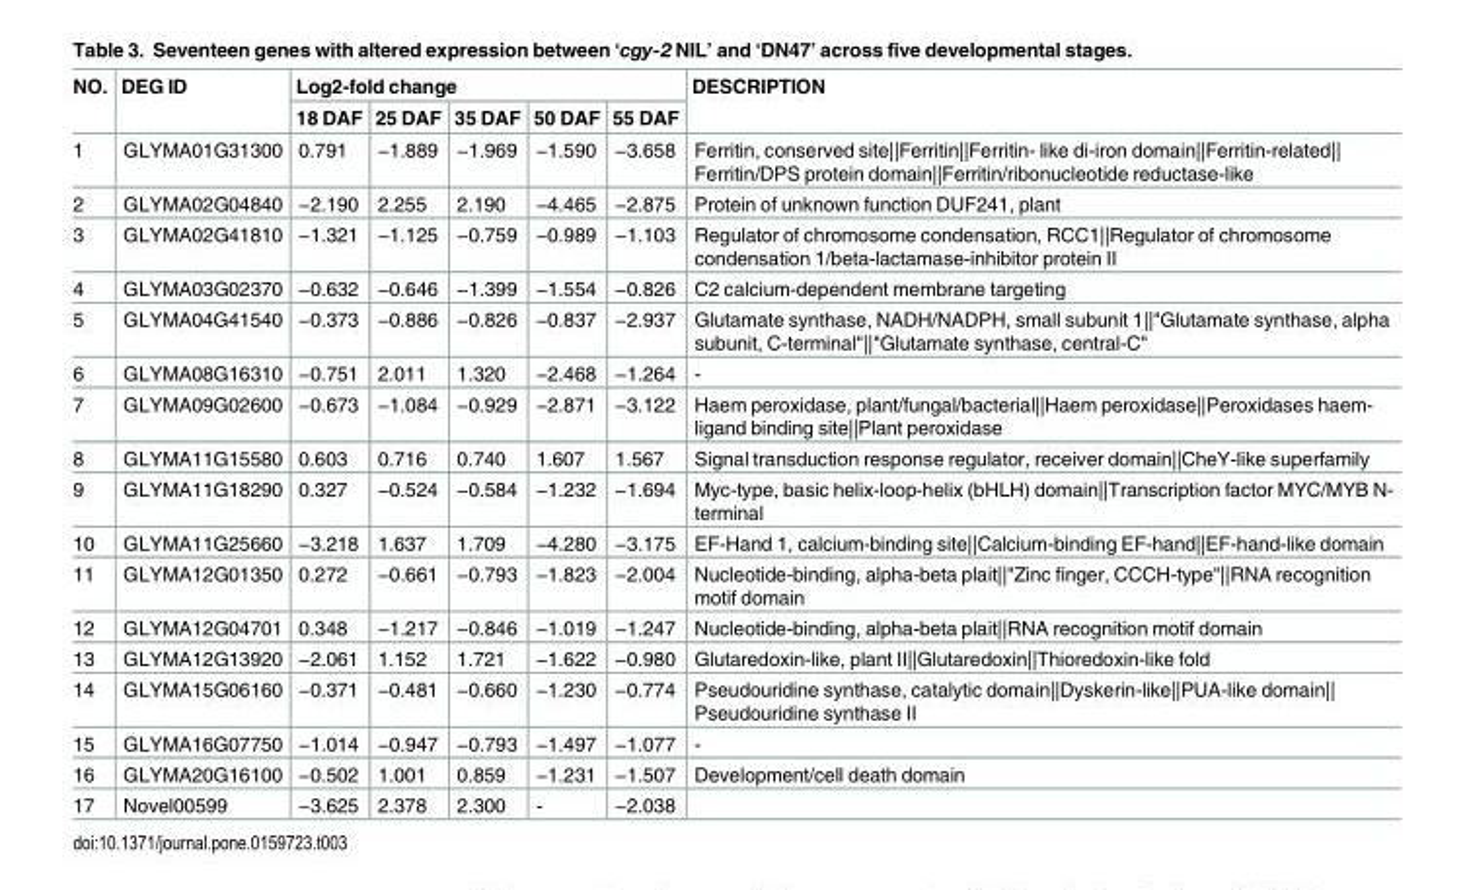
<table><thead><tr><td rowspan="2">NO.</td><td rowspan="2">DEG ID</td><td colspan="5">Log2-fold change</td><td rowspan="2">DESCRIPTION</td></tr><tr><td>18 DAF</td><td>25 DAF</td><td>35 DAF</td><td>50 DAF</td><td>55 DAF</td></tr></thead><tbody><tr><td>1</td><td>GLYMA01G31300</td><td>0.791</td><td>−1.889</td><td>−1.969</td><td>−1.590</td><td>−3.658</td><td>Ferritin, conserved site||Ferritin||Ferritin- like di-iron domain||Ferritin-related|| Ferritin/DPS protein domain||Ferritin/ribonucleotide reductase-like</td></tr><tr><td>2</td><td>GLYMA02G04840</td><td>−2.190</td><td>2.255</td><td>2.190</td><td>−4.465</td><td>−2.875</td><td>Protein of unknown function DUF241, plant</td></tr><tr><td>3</td><td>GLYMA02G41810</td><td>−1.321</td><td>−1.125</td><td>−0.759</td><td>−0.989</td><td>−1.103</td><td>Regulator of chromosome condensation, RCC1||Regulator of chromosome condensation 1/beta-lactamase-inhibitor protein II</td></tr><tr><td>4</td><td>GLYMA03G02370</td><td>−0.632</td><td>−0.646</td><td>−1.399</td><td>−1.554</td><td>−0.826</td><td>C2 calcium-dependent membrane targeting</td></tr><tr><td>5</td><td>GLYMA04G41540</td><td>−0.373</td><td>−0.886</td><td>−0.826</td><td>−0.837</td><td>−2.937</td><td>Glutamate synthase, NADH/NADPH, small subunit 1||&quot;Glutamate synthase, alpha subunit, C-terminal&quot;||&quot;Glutamate synthase, central-C&quot;</td></tr><tr><td>6</td><td>GLYMA08G16310</td><td>−0.751</td><td>2.011</td><td>1.320</td><td>−2.468</td><td>−1.264</td><td>-</td></tr><tr><td>7</td><td>GLYMA09G02600</td><td>−0.673</td><td>−1.084</td><td>−0.929</td><td>−2.871</td><td>−3.122</td><td>Haem peroxidase, plant/fungal/bacterial||Haem peroxidase||Peroxidases haem- ligand binding site||Plant peroxidase</td></tr><tr><td>8</td><td>GLYMA11G15580</td><td>0.603</td><td>0.716</td><td>0.740</td><td>1.607</td><td>1.567</td><td>Signal transduction response regulator, receiver domain||CheY-like superfamily</td></tr><tr><td>9</td><td>GLYMA11G18290</td><td>0.327</td><td>−0.524</td><td>−0.584</td><td>−1.232</td><td>−1.694</td><td>Myc-type, basic helix-loop-helix (bHLH) domain||Transcription factor MYC/MYB N- terminal</td></tr><tr><td>10</td><td>GLYMA11G25660</td><td>−3.218</td><td>1.637</td><td>1.709</td><td>−4.280</td><td>−3.175</td><td>EF-Hand 1, calcium-binding site||Calcium-binding EF-hand||EF-hand-like domain</td></tr><tr><td>11</td><td>GLYMA12G01350</td><td>0.272</td><td>−0.661</td><td>−0.793</td><td>−1.823</td><td>−2.004</td><td>Nucleotide-binding, alpha-beta plait||&quot;Zinc finger, CCCH-type&quot;||RNA recognition motif domain</td></tr><tr><td>12</td><td>GLYMA12G04701</td><td>0.348</td><td>−1.217</td><td>−0.846</td><td>−1.019</td><td>−1.247</td><td>Nucleotide-binding, alpha-beta plait||RNA recognition motif domain</td></tr><tr><td>13</td><td>GLYMA12G13920</td><td>−2.061</td><td>1.152</td><td>1.721</td><td>−1.622</td><td>−0.980</td><td>Glutaredoxin-like, plant II||Glutaredoxin||Thioredoxin-like fold</td></tr><tr><td>14</td><td>GLYMA15G06160</td><td>−0.371</td><td>−0.481</td><td>−0.660</td><td>−1.230</td><td>−0.774</td><td>Pseudouridine synthase, catalytic domain||Dyskerin-like||PUA-like domain|| Pseudouridine synthase II</td></tr><tr><td>15</td><td>GLYMA16G07750</td><td>−1.014</td><td>−0.947</td><td>−0.793</td><td>−1.497</td><td>−1.077</td><td>-</td></tr><tr><td>16</td><td>GLYMA20G16100</td><td>−0.502</td><td>1.001</td><td>0.859</td><td>−1.231</td><td>−1.507</td><td>Development/cell death domain</td></tr><tr><td>17</td><td>Novel00599</td><td>−3.625</td><td>2.378</td><td>2.300</td><td>-</td><td>−2.038</td><td></td></tr></tbody></table>